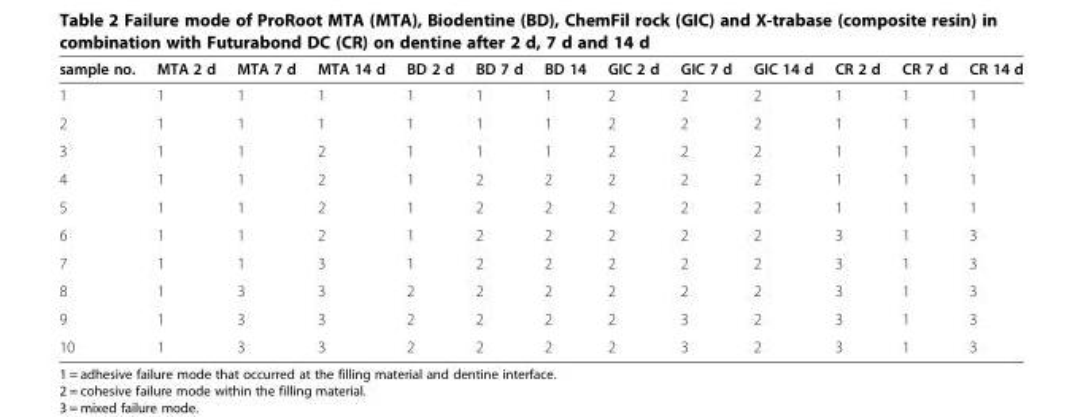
<table><thead><tr><td>sample no.</td><td>MTA 2 d</td><td>MTA 7 d</td><td>MTA 14 d</td><td>BD 2 d</td><td>BD 7 d</td><td>BD 14</td><td>GIC 2 d</td><td>GIC 7 d</td><td>GIC 14 d</td><td>CR 2 d</td><td>CR 7 d</td><td>CR 14 d</td></tr></thead><tbody><tr><td>1</td><td>1</td><td>1</td><td>1</td><td>1</td><td>1</td><td>1</td><td>2</td><td>2</td><td>2</td><td>1</td><td>1</td><td>1</td></tr><tr><td>2</td><td>1</td><td>1</td><td>1</td><td>1</td><td>1</td><td>1</td><td>2</td><td>2</td><td>2</td><td>1</td><td>1</td><td>1</td></tr><tr><td>3</td><td>1</td><td>1</td><td>2</td><td>1</td><td>1</td><td>1</td><td>2</td><td>2</td><td>2</td><td>1</td><td>1</td><td>1</td></tr><tr><td>4</td><td>1</td><td>1</td><td>2</td><td>1</td><td>2</td><td>2</td><td>2</td><td>2</td><td>2</td><td>1</td><td>1</td><td>1</td></tr><tr><td>5</td><td>1</td><td>1</td><td>2</td><td>1</td><td>2</td><td>2</td><td>2</td><td>2</td><td>2</td><td>1</td><td>1</td><td>1</td></tr><tr><td>6</td><td>1</td><td>1</td><td>2</td><td>1</td><td>2</td><td>2</td><td>2</td><td>2</td><td>2</td><td>3</td><td>1</td><td>3</td></tr><tr><td>7</td><td>1</td><td>1</td><td>3</td><td>1</td><td>2</td><td>2</td><td>2</td><td>2</td><td>2</td><td>3</td><td>1</td><td>3</td></tr><tr><td>8</td><td>1</td><td>3</td><td>3</td><td>2</td><td>2</td><td>2</td><td>2</td><td>2</td><td>2</td><td>3</td><td>1</td><td>3</td></tr><tr><td>9</td><td>1</td><td>3</td><td>3</td><td>2</td><td>2</td><td>2</td><td>2</td><td>3</td><td>2</td><td>3</td><td>1</td><td>3</td></tr><tr><td>10</td><td>1</td><td>3</td><td>3</td><td>2</td><td>2</td><td>2</td><td>2</td><td>3</td><td>2</td><td>3</td><td>1</td><td>3</td></tr></tbody></table>